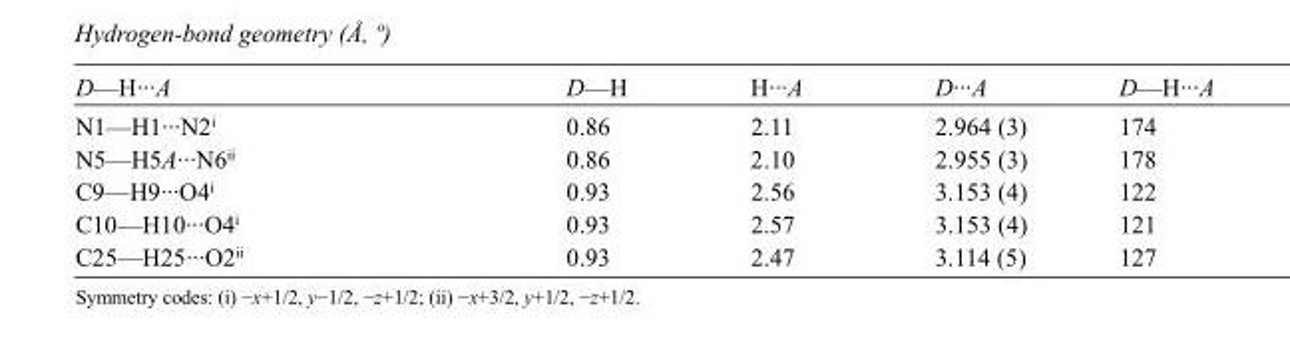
<table><tbody><tr><td>D—H···A</td><td>D—H</td><td>H···A</td><td>D···A</td><td>D—H···A</td></tr><tr><td>N1—H1···N2<sup>i</sup></td><td>0.86</td><td>2.11</td><td>2.964 (3)</td><td>174</td></tr><tr><td>N5—H5A···N6<sup>ii</sup></td><td>0.86</td><td>2.10</td><td>2.955 (3)</td><td>178</td></tr><tr><td>C9—H9···O4<sup>i</sup></td><td>0.93</td><td>2.56</td><td>3.153 (4)</td><td>122</td></tr><tr><td>C10—H10···O4<sup>i</sup></td><td>0.93</td><td>2.57</td><td>3.153 (4)</td><td>121</td></tr><tr><td>C25—H25···O2<sup>ii</sup></td><td>0.93</td><td>2.47</td><td>3.114 (5)</td><td>127</td></tr></tbody></table>